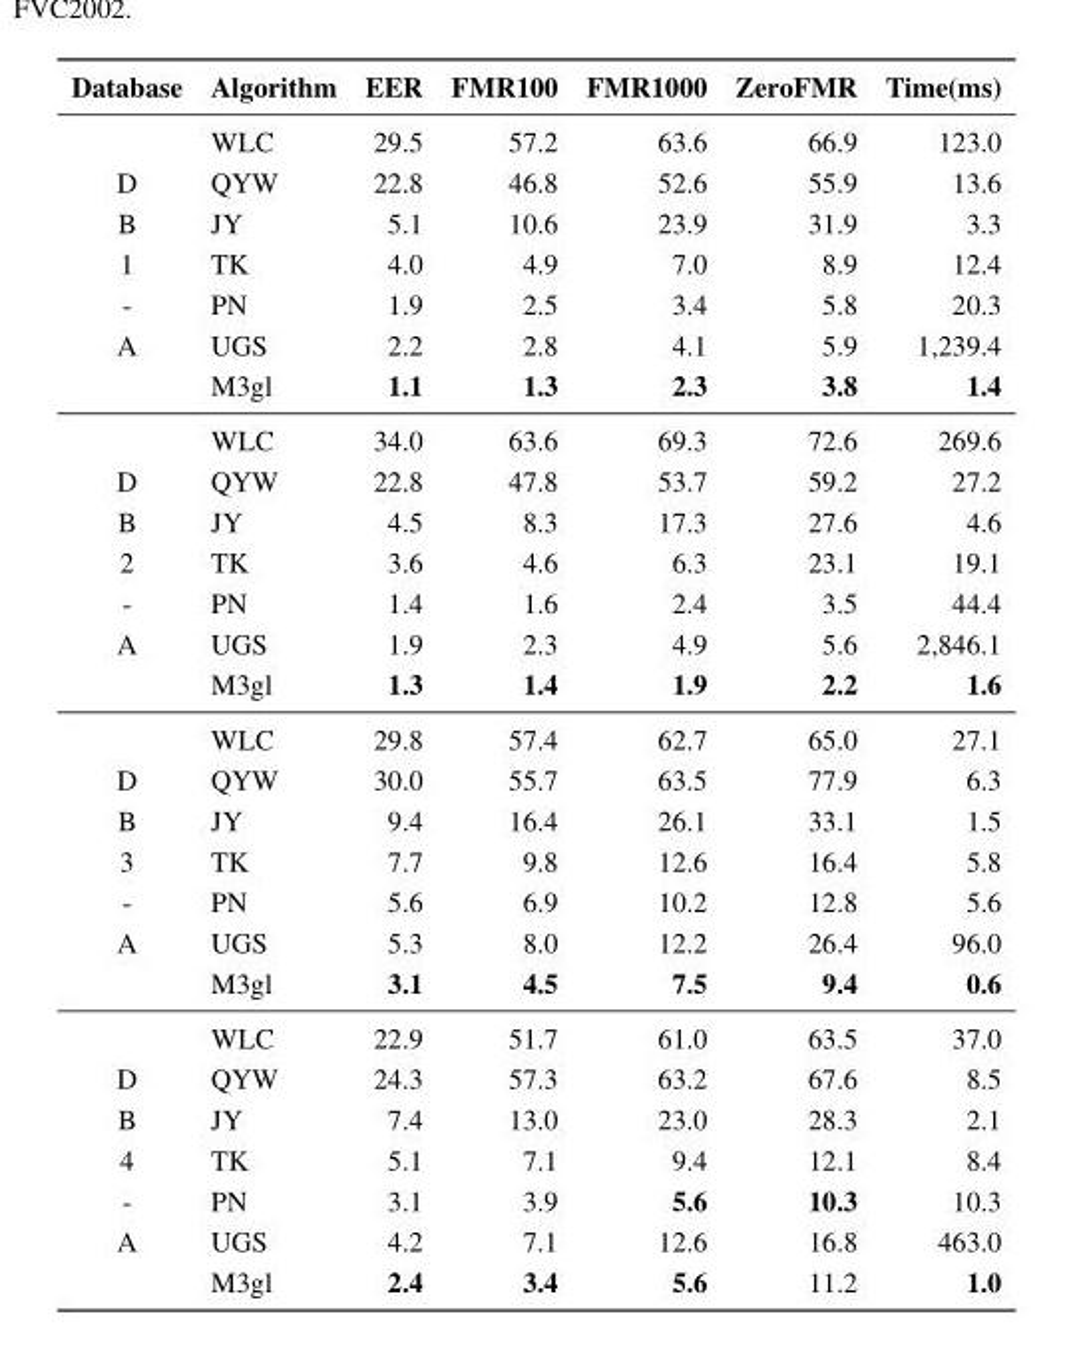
<table><thead><tr><td>Database</td><td>Algorithm</td><td>EER</td><td>FMR100</td><td>FMR1000</td><td>ZeroFMR</td><td>Time(ms)</td></tr></thead><tbody><tr><td></td><td>WLC</td><td>29.5</td><td>57.2</td><td>63.6</td><td>66.9</td><td>123.0</td></tr><tr><td>D</td><td>QYW</td><td>22.8</td><td>46.8</td><td>52.6</td><td>55.9</td><td>13.6</td></tr><tr><td>B</td><td>JY</td><td>5.1</td><td>10.6</td><td>23.9</td><td>31.9</td><td>3.3</td></tr><tr><td>1</td><td>TK</td><td>4.0</td><td>4.9</td><td>7.0</td><td>8.9</td><td>12.4</td></tr><tr><td>-</td><td>PN</td><td>1.9</td><td>2.5</td><td>3.4</td><td>5.8</td><td>20.3</td></tr><tr><td rowspan="3">A</td><td>UGS</td><td>2.2</td><td>2.8</td><td>4.1</td><td>5.9</td><td>1,239.4</td></tr><tr><td>M3gl</td><td>1.1</td><td>1.3</td><td>2.3</td><td>3.8</td><td>1.4</td></tr><tr><td>WLC</td><td>34.0</td><td>63.6</td><td>69.3</td><td>72.6</td><td>269.6</td></tr><tr><td>D</td><td>QYW</td><td>22.8</td><td>47.8</td><td>53.7</td><td>59.2</td><td>27.2</td></tr><tr><td>B</td><td>JY</td><td>4.5</td><td>8.3</td><td>17.3</td><td>27.6</td><td>4.6</td></tr><tr><td>2</td><td>TK</td><td>3.6</td><td>4.6</td><td>6.3</td><td>23.1</td><td>19.1</td></tr><tr><td>-</td><td>PN</td><td>1.4</td><td>1.6</td><td>2.4</td><td>3.5</td><td>44.4</td></tr><tr><td rowspan="3">A</td><td>UGS</td><td>1.9</td><td>2.3</td><td>4.9</td><td>5.6</td><td>2,846.1</td></tr><tr><td>M3gl</td><td>1.3</td><td>1.4</td><td>1.9</td><td>2.2</td><td>1.6</td></tr><tr><td>WLC</td><td>29.8</td><td>57.4</td><td>62.7</td><td>65.0</td><td>27.1</td></tr><tr><td>D</td><td>QYW</td><td>30.0</td><td>55.7</td><td>63.5</td><td>77.9</td><td>6.3</td></tr><tr><td>B</td><td>JY</td><td>9.4</td><td>16.4</td><td>26.1</td><td>33.1</td><td>1.5</td></tr><tr><td>3</td><td>TK</td><td>7.7</td><td>9.8</td><td>12.6</td><td>16.4</td><td>5.8</td></tr><tr><td>-</td><td>PN</td><td>5.6</td><td>6.9</td><td>10.2</td><td>12.8</td><td>5.6</td></tr><tr><td rowspan="3">A</td><td>UGS</td><td>5.3</td><td>8.0</td><td>12.2</td><td>26.4</td><td>96.0</td></tr><tr><td>M3gl</td><td>3.1</td><td>4.5</td><td>7.5</td><td>9.4</td><td>0.6</td></tr><tr><td>WLC</td><td>22.9</td><td>51.7</td><td>61.0</td><td>63.5</td><td>37.0</td></tr><tr><td>D</td><td>QYW</td><td>24.3</td><td>57.3</td><td>63.2</td><td>67.6</td><td>8.5</td></tr><tr><td>B</td><td>JY</td><td>7.4</td><td>13.0</td><td>23.0</td><td>28.3</td><td>2.1</td></tr><tr><td>4</td><td>TK</td><td>5.1</td><td>7.1</td><td>9.4</td><td>12.1</td><td>8.4</td></tr><tr><td>-</td><td>PN</td><td>3.1</td><td>3.9</td><td>5.6</td><td>10.3</td><td>10.3</td></tr><tr><td rowspan="2">A</td><td>UGS</td><td>4.2</td><td>7.1</td><td>12.6</td><td>16.8</td><td>463.0</td></tr><tr><td>M3gl</td><td>2.4</td><td>3.4</td><td>5.6</td><td>11.2</td><td>1.0</td></tr></tbody></table>